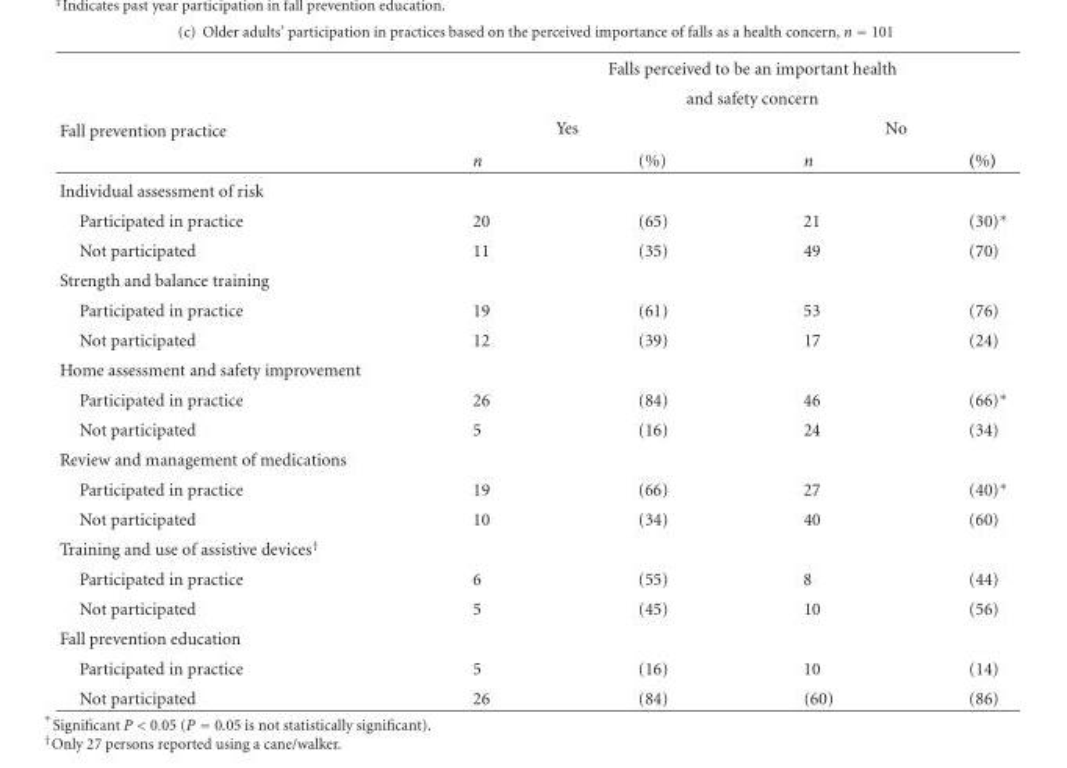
<table><thead><tr><td rowspan="4">Fall prevention practice</td><td rowspan="2" colspan="4">Falls perceived to be an important health and safety concern</td></tr><tr></tr><tr><td colspan="2">Yes</td><td colspan="2">No</td></tr><tr><td>n</td><td>(%)</td><td>n</td><td>(%)</td></tr></thead><tbody><tr><td colspan="5">Individual assessment of risk</td></tr><tr><td>Participated in practice</td><td>20</td><td>(65)</td><td>21</td><td>(30)∗</td></tr><tr><td>Not participated</td><td>11</td><td>(35)</td><td>49</td><td>(70)</td></tr><tr><td colspan="5">Strength and balance training</td></tr><tr><td>Participated in practice</td><td>19</td><td>(61)</td><td>53</td><td>(76)</td></tr><tr><td>Not participated</td><td>12</td><td>(39)</td><td>17</td><td>(24)</td></tr><tr><td colspan="5">Home assessment and safety improvement</td></tr><tr><td>Participated in practice</td><td>26</td><td>(84)</td><td>46</td><td>(66)∗</td></tr><tr><td>Not participated</td><td>5</td><td>(16)</td><td>24</td><td>(34)</td></tr><tr><td colspan="5">Review and management of medications</td></tr><tr><td>Participated in practice</td><td>19</td><td>(66)</td><td>27</td><td>(40)∗</td></tr><tr><td>Not participated</td><td>10</td><td>(34)</td><td>40</td><td>(60)</td></tr><tr><td colspan="5">Training and use of assistive devices<sup>†</sup></td></tr><tr><td>Participated in practice</td><td>6</td><td>(55)</td><td>8</td><td>(44)</td></tr><tr><td>Not participated</td><td>5</td><td>(45)</td><td>10</td><td>(56)</td></tr><tr><td colspan="5">Fall prevention education</td></tr><tr><td>Participated in practice</td><td>5</td><td>(16)</td><td>10</td><td>(14)</td></tr><tr><td>Not participated</td><td>26</td><td>(84)</td><td>(60)</td><td>(86)</td></tr></tbody></table>